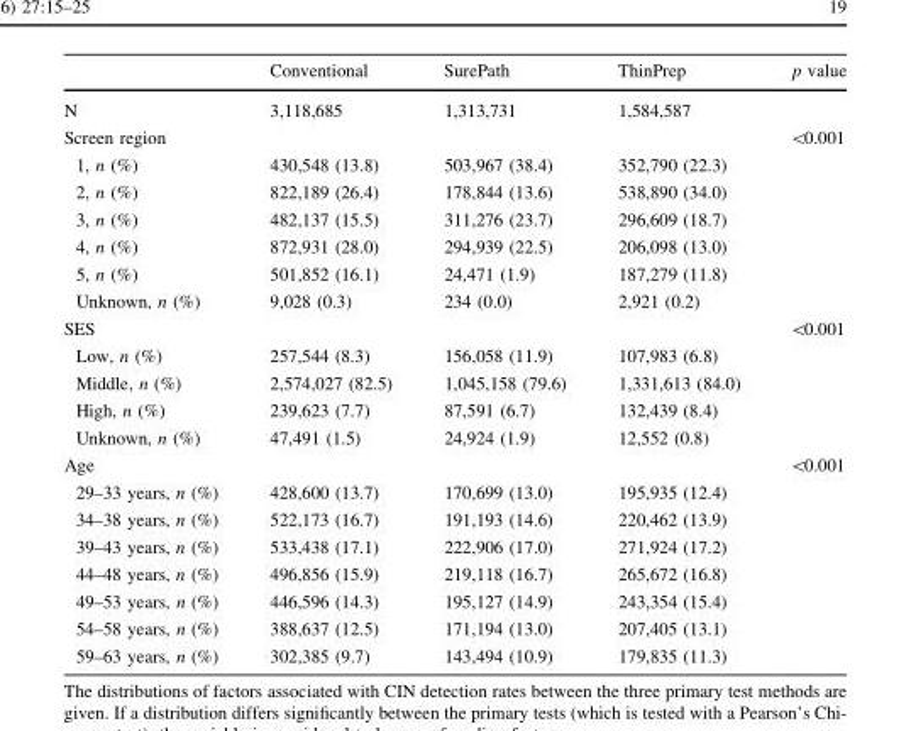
<table><thead><tr><td></td><td>Conventional</td><td>SurePath</td><td>ThinPrep</td><td>p value</td></tr></thead><tbody><tr><td>N</td><td>3,118,685</td><td>1,313,731</td><td>1,584,587</td><td></td></tr><tr><td>Screen region</td><td></td><td></td><td></td><td>&lt;0.001</td></tr><tr><td>1, n (%)</td><td>430,548 (13.8)</td><td>503,967 (38.4)</td><td>352,790 (22.3)</td><td></td></tr><tr><td>2, n (%)</td><td>822,189 (26.4)</td><td>178,844 (13.6)</td><td>538,890 (34.0)</td><td></td></tr><tr><td>3, n (%)</td><td>482,137 (15.5)</td><td>311,276 (23.7)</td><td>296,609 (18.7)</td><td></td></tr><tr><td>4, n (%)</td><td>872,931 (28.0)</td><td>294,939 (22.5)</td><td>206,098 (13.0)</td><td></td></tr><tr><td>5, n (%)</td><td>501,852 (16.1)</td><td>24,471 (1.9)</td><td>187,279 (11.8)</td><td></td></tr><tr><td>Unknown, n (%)</td><td>9,028 (0.3)</td><td>234 (0.0)</td><td>2,921 (0.2)</td><td></td></tr><tr><td>SES</td><td></td><td></td><td></td><td>&lt;0.001</td></tr><tr><td>Low, n (%)</td><td>257,544 (8.3)</td><td>156,058 (11.9)</td><td>107,983 (6.8)</td><td></td></tr><tr><td>Middle, n (%)</td><td>2,574,027 (82.5)</td><td>1,045,158 (79.6)</td><td>1,331,613 (84.0)</td><td></td></tr><tr><td>High, n (%)</td><td>239,623 (7.7)</td><td>87,591 (6.7)</td><td>132,439 (8.4)</td><td></td></tr><tr><td>Unknown, n (%)</td><td>47,491 (1.5)</td><td>24,924 (1.9)</td><td>12,552 (0.8)</td><td></td></tr><tr><td>Age</td><td></td><td></td><td></td><td>&lt;0.001</td></tr><tr><td>29–33 years, n (%)</td><td>428,600 (13.7)</td><td>170,699 (13.0)</td><td>195,935 (12.4)</td><td></td></tr><tr><td>34–38 years, n (%)</td><td>522,173 (16.7)</td><td>191,193 (14.6)</td><td>220,462 (13.9)</td><td></td></tr><tr><td>39–43 years, n (%)</td><td>533,438 (17.1)</td><td>222,906 (17.0)</td><td>271,924 (17.2)</td><td></td></tr><tr><td>44–48 years, n (%)</td><td>496,856 (15.9)</td><td>219,118 (16.7)</td><td>265,672 (16.8)</td><td></td></tr><tr><td>49–53 years, n (%)</td><td>446,596 (14.3)</td><td>195,127 (14.9)</td><td>243,354 (15.4)</td><td></td></tr><tr><td>54–58 years, n (%)</td><td>388,637 (12.5)</td><td>171,194 (13.0)</td><td>207,405 (13.1)</td><td></td></tr><tr><td>59–63 years, n (%)</td><td>302,385 (9.7)</td><td>143,494 (10.9)</td><td>179,835 (11.3)</td><td></td></tr></tbody></table>